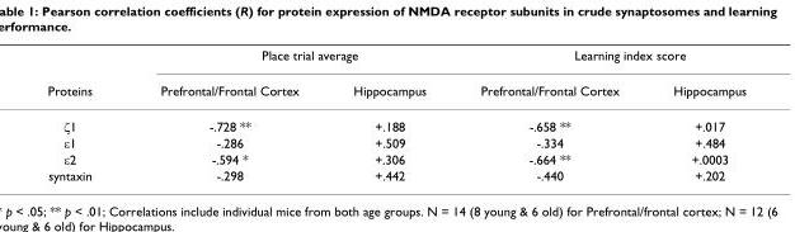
<table><thead><tr><td rowspan="2">Proteins</td><td colspan="2">Place trial average</td><td colspan="2">Learning index score</td></tr><tr><td>Prefrontal/Frontal Cortex</td><td>Hippocampus</td><td>Prefrontal/Frontal Cortex</td><td>Hippocampus</td></tr></thead><tbody><tr><td>ζ1</td><td>-.728 **</td><td>+.188</td><td>-.658 **</td><td>+.017</td></tr><tr><td>ε1</td><td>-.286</td><td>+.509</td><td>-.334</td><td>+.484</td></tr><tr><td>ε2</td><td>-.594 *</td><td>+.306</td><td>-.664 **</td><td>+.0003</td></tr><tr><td>syntaxin</td><td>-.298</td><td>+.442</td><td>-.440</td><td>+.202</td></tr></tbody></table>